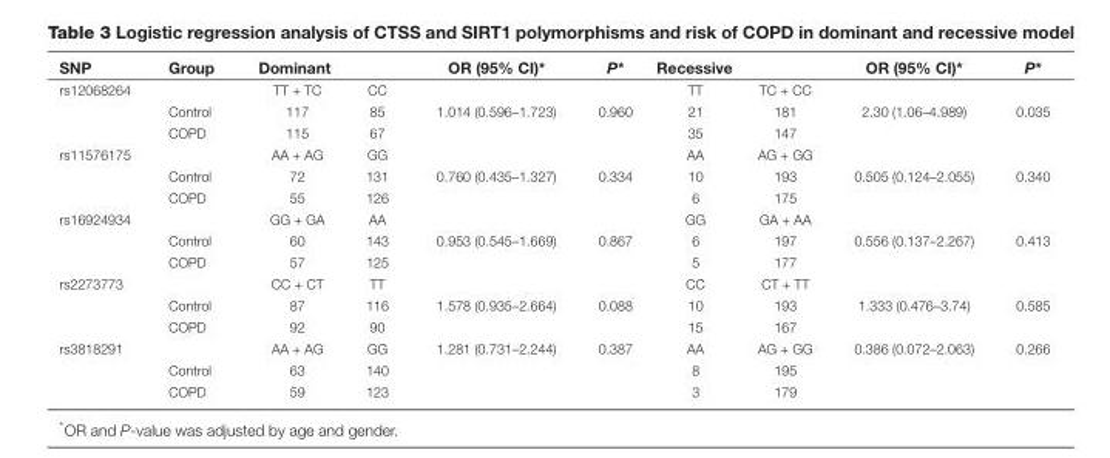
<table><thead><tr><td rowspan="2">SNP rs12068264</td><td rowspan="2">Group</td><td colspan="2">Dominant</td><td rowspan="2">OR (95% CI)*</td><td rowspan="2">P*</td><td colspan="2">Recessive</td><td rowspan="2">OR (95% CI)*</td><td rowspan="2">P*</td></tr><tr><td>TT + TC</td><td>CC</td><td>TT</td><td>TC + CC</td></tr></thead><tbody><tr><td></td><td>Control</td><td>117</td><td>85</td><td>1.014 (0.596–1.723)</td><td>0.960</td><td>21</td><td>181</td><td>2.30 (1.06–4.989)</td><td>0.035</td></tr><tr><td></td><td>COPD</td><td>115</td><td>67</td><td></td><td></td><td>35</td><td>147</td><td></td><td></td></tr><tr><td rowspan="3">rs11576175</td><td></td><td>AA + AG</td><td>GG</td><td></td><td></td><td>AA</td><td>AG + GG</td><td></td><td></td></tr><tr><td>Control</td><td>72</td><td>131</td><td>0.760 (0.435–1.327)</td><td>0.334</td><td>10</td><td>193</td><td>0.505 (0.124–2.055)</td><td>0.340</td></tr><tr><td>COPD</td><td>55</td><td>126</td><td></td><td></td><td>6</td><td>175</td><td></td><td></td></tr><tr><td rowspan="3">rs16924934</td><td></td><td>GG + GA</td><td>AA</td><td></td><td></td><td>GG</td><td>GA + AA</td><td></td><td></td></tr><tr><td>Control</td><td>60</td><td>143</td><td>0.953 (0.545–1.669)</td><td>0.867</td><td>6</td><td>197</td><td>0.556 (0.137–2.267)</td><td>0.413</td></tr><tr><td>COPD</td><td>57</td><td>125</td><td></td><td></td><td>5</td><td>177</td><td></td><td></td></tr><tr><td rowspan="3">rs2273773</td><td></td><td>CC + CT</td><td>TT</td><td></td><td></td><td>CC</td><td>CT + TT</td><td></td><td></td></tr><tr><td>Control</td><td>87</td><td>116</td><td>1.578 (0.935–2.664)</td><td>0.088</td><td>10</td><td>193</td><td>1.333 (0.476–3.74)</td><td>0.585</td></tr><tr><td>COPD</td><td>92</td><td>90</td><td></td><td></td><td>15</td><td>167</td><td></td><td></td></tr><tr><td rowspan="3">rs3818291</td><td></td><td>AA + AG</td><td>GG</td><td>1.281 (0.731–2.244)</td><td>0.387</td><td>AA</td><td>AG + GG</td><td>0.386 (0.072–2.063)</td><td>0.266</td></tr><tr><td>Control</td><td>63</td><td>140</td><td></td><td></td><td>8</td><td>195</td><td></td><td></td></tr><tr><td>COPD</td><td>59</td><td>123</td><td></td><td></td><td>3</td><td>179</td><td></td><td></td></tr></tbody></table>